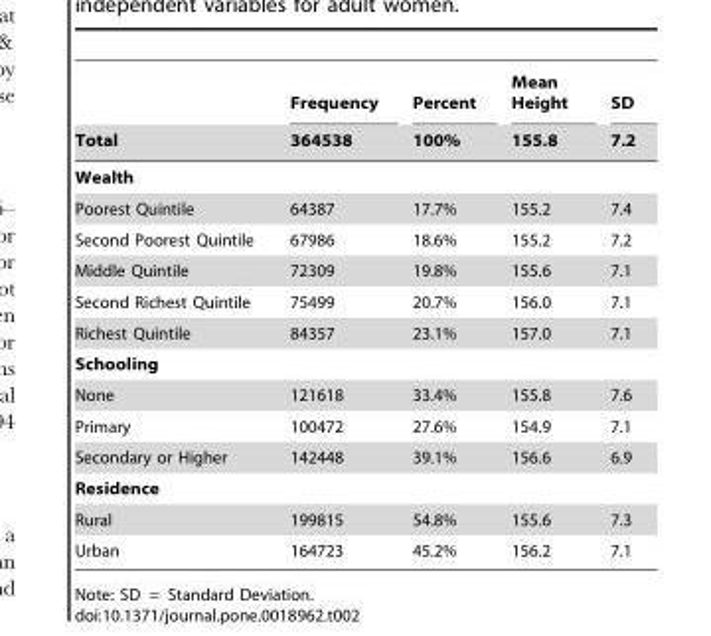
<table><thead><tr><td rowspan="2">Total</td><td rowspan="2">Frequency 364538</td><td rowspan="2">Percent 100%</td><td rowspan="2">Mean Height 155.8</td><td rowspan="2">SD 7.2</td></tr><tr></tr></thead><tbody><tr><td colspan="5">Wealth</td></tr><tr><td>Poorest Quintile</td><td>64387</td><td>17.7%</td><td>155.2</td><td>7.4</td></tr><tr><td>Second Poorest Quintile</td><td>67986</td><td>18.6%</td><td>155.2</td><td>7.2</td></tr><tr><td>Middle Quintile</td><td>72309</td><td>19.8%</td><td>155.6</td><td>7.1</td></tr><tr><td>Second Richest Quintile</td><td>75499</td><td>20.7%</td><td>156.0</td><td>7.1</td></tr><tr><td>Richest Quintile</td><td>84357</td><td>23.1%</td><td>157.0</td><td>7.1</td></tr><tr><td colspan="5">Schooling</td></tr><tr><td>None</td><td>121618</td><td>33.4%</td><td>155.8</td><td>7.6</td></tr><tr><td>Primary</td><td>100472</td><td>27.6%</td><td>154.9</td><td>7.1</td></tr><tr><td>Secondary or Higher</td><td>142448</td><td>39.1%</td><td>156.6</td><td>6.9</td></tr><tr><td colspan="5">Residence</td></tr><tr><td>Rural</td><td>199815</td><td>54.8%</td><td>155.6</td><td>7.3</td></tr><tr><td>Urban</td><td>164723</td><td>45.2%</td><td>156.2</td><td>7.1</td></tr></tbody></table>